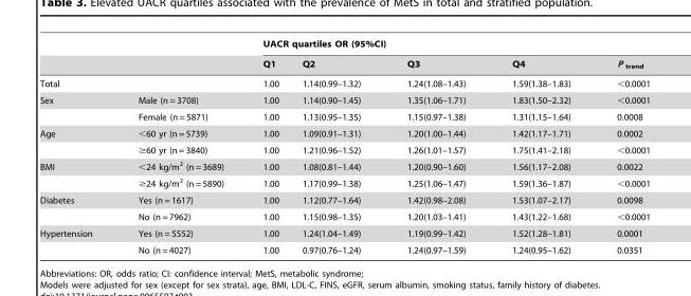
<table><thead><tr><td rowspan="2"></td><td rowspan="2"></td><td colspan="5">UACR quartiles OR (95%CI)</td></tr><tr><td>Q1</td><td>Q2</td><td>Q3</td><td>Q4</td><td>P <sub>trend</sub></td></tr></thead><tbody><tr><td>Total</td><td></td><td>1.00</td><td>1.14(0.99–1.32)</td><td>1.24(1.08–1.43)</td><td>1.59(1.38–1.83)</td><td>&lt;0.0001</td></tr><tr><td rowspan="2">Sex</td><td>Male (n = 3708)</td><td>1.00</td><td>1.14(0.90–1.45)</td><td>1.35(1.06–1.71)</td><td>1.83(1.50–2.32)</td><td>&lt;0.0001</td></tr><tr><td>Female (n = 5871)</td><td>1.00</td><td>1.13(0.95–1.35)</td><td>1.15(0.97–1.38)</td><td>1.31(1.15–1.64)</td><td>0.0008</td></tr><tr><td rowspan="2">Age</td><td>&lt;60 yr (n = 5739)</td><td>1.00</td><td>1.09(0.91–1.31)</td><td>1.20(1.00–1.44)</td><td>1.42(1.17–1.71)</td><td>0.0002</td></tr><tr><td>≥60 yr (n = 3840)</td><td>1.00</td><td>1.21(0.96–1.52)</td><td>1.26(1.01–1.57)</td><td>1.75(1.41–2.18)</td><td>&lt;0.0001</td></tr><tr><td rowspan="2">BMI</td><td>&lt;24 kg/m<sup>2</sup> (n = 3689)</td><td>1.00</td><td>1.08(0.81–1.44)</td><td>1.20(0.90–1.60)</td><td>1.56(1.17–2.08)</td><td>0.0022</td></tr><tr><td>≥24 kg/m<sup>2</sup> (n = 5890)</td><td>1.00</td><td>1.17(0.99–1.38)</td><td>1.25(1.06–1.47)</td><td>1.59(1.36–1.87)</td><td>&lt;0.0001</td></tr><tr><td rowspan="2">Diabetes</td><td>Yes (n = 1617)</td><td>1.00</td><td>1.12(0.77–1.64)</td><td>1.42(0.98–2.08)</td><td>1.53(1.07–2.17)</td><td>0.0098</td></tr><tr><td>No (n = 7962)</td><td>1.00</td><td>1.15(0.98–1.35)</td><td>1.20(1.03–1.41)</td><td>1.43(1.22–1.68)</td><td>&lt;0.0001</td></tr><tr><td rowspan="2">Hypertension</td><td>Yes (n = 5552)</td><td>1.00</td><td>1.24(1.04–1.49)</td><td>1.19(0.99–1.42)</td><td>1.52(1.28–1.81)</td><td>0.0001</td></tr><tr><td>No (n = 4027)</td><td>1.00</td><td>0.97(0.76–1.24)</td><td>1.24(0.97–1.59)</td><td>1.24(0.95–1.62)</td><td>0.0351</td></tr></tbody></table>